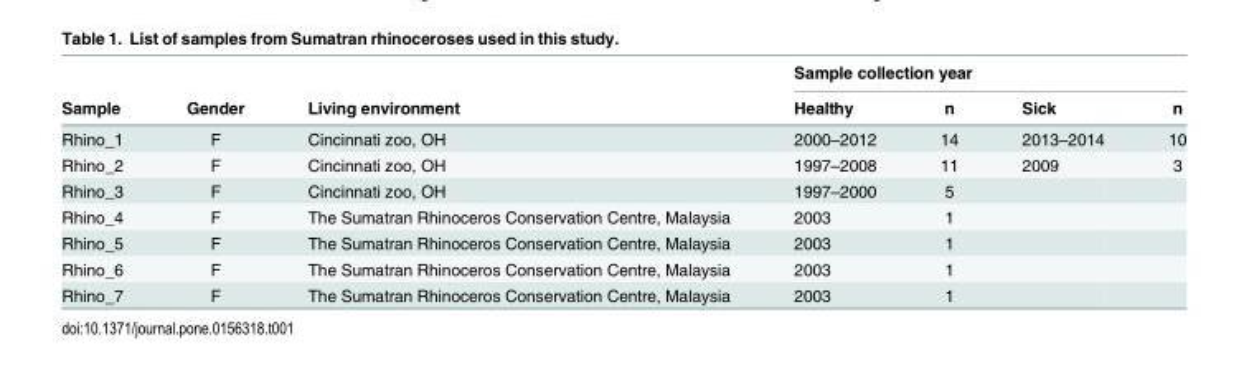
<table><thead><tr><td rowspan="2">Sample</td><td rowspan="2">Gender</td><td rowspan="2">Living environment</td><td colspan="4">Sample collection year</td></tr><tr><td>Healthy</td><td>n</td><td>Sick</td><td>n</td></tr></thead><tbody><tr><td>Rhino_1</td><td>F</td><td>Cincinnati zoo, OH</td><td>2000–2012</td><td>14</td><td>2013–2014</td><td>10</td></tr><tr><td>Rhino_2</td><td>F</td><td>Cincinnati zoo, OH</td><td>1997–2008</td><td>11</td><td>2009</td><td>3</td></tr><tr><td>Rhino_3</td><td>F</td><td>Cincinnati zoo, OH</td><td>1997–2000</td><td>5</td><td></td><td></td></tr><tr><td>Rhino_4</td><td>F</td><td>The Sumatran Rhinoceros Conservation Centre, Malaysia</td><td>2003</td><td>1</td><td></td><td></td></tr><tr><td>Rhino_5</td><td>F</td><td>The Sumatran Rhinoceros Conservation Centre, Malaysia</td><td>2003</td><td>1</td><td></td><td></td></tr><tr><td>Rhino_6</td><td>F</td><td>The Sumatran Rhinoceros Conservation Centre, Malaysia</td><td>2003</td><td>1</td><td></td><td></td></tr><tr><td>Rhino_7</td><td>F</td><td>The Sumatran Rhinoceros Conservation Centre, Malaysia</td><td>2003</td><td>1</td><td></td><td></td></tr></tbody></table>